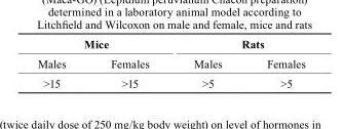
<table><thead><tr><td colspan="2">Mice</td><td colspan="2">rats</td></tr><tr><td>Males</td><td>Females</td><td>Males</td><td>Females</td></tr></thead><tbody><tr><td>&gt;15</td><td>&gt;15</td><td>&gt;5</td><td>&gt;5</td></tr></tbody></table>